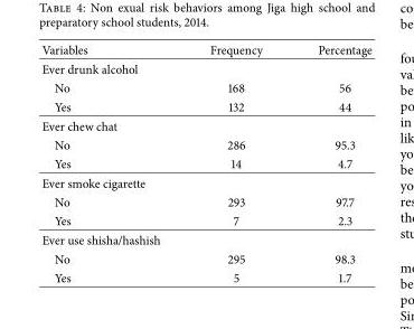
<table><thead><tr><td>Variables</td><td>Frequency</td><td>Percentage</td></tr></thead><tbody><tr><td colspan="3">Ever drunk alcohol</td></tr><tr><td>No</td><td>168</td><td>56</td></tr><tr><td>Yes</td><td>132</td><td>44</td></tr><tr><td colspan="3">Ever chew chat</td></tr><tr><td>No</td><td>286</td><td>95.3</td></tr><tr><td>Yes</td><td>14</td><td>4.7</td></tr><tr><td colspan="3">Ever smoke cigarette</td></tr><tr><td>No</td><td>293</td><td>97.7</td></tr><tr><td>Yes</td><td>7</td><td>2.3</td></tr><tr><td colspan="3">Ever use shisha/hashish</td></tr><tr><td>No</td><td>295</td><td>98.3</td></tr><tr><td>Yes</td><td>5</td><td>1.7</td></tr></tbody></table>